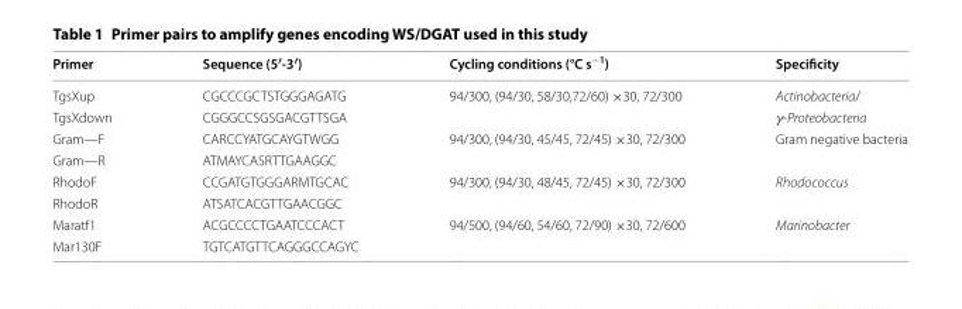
<table><thead><tr><td>Primer</td><td>Sequence (5′-3′)</td><td>Cycling conditions (°C s<sup>−1</sup>)</td><td>Specificity</td></tr></thead><tbody><tr><td>TgsXup</td><td>CGCCCGCTSTGGGAGATG</td><td rowspan="2">94/300, (94/30, 58/30,72/60) ×30, 72/300</td><td>Actinobacteria/</td></tr><tr><td>TgsXdown</td><td>CGGGCCSGSGACGTTSGA</td><td>γ-Proteobacteria</td></tr><tr><td>Gram—F</td><td>CARCCYATGCAYGTWGG</td><td rowspan="2">94/300, (94/30, 45/45, 72/45) ×30, 72/300</td><td rowspan="2">Gram negative bacteria</td></tr><tr><td>Gram—R</td><td>ATMAYCASRTTGAAGGC</td></tr><tr><td>RhodoF</td><td>CCGATGTGGGARMTGCAC</td><td rowspan="2">94/300, (94/30, 48/45, 72/45) ×30, 72/300</td><td rowspan="2">Rhodococcus</td></tr><tr><td>RhodoR</td><td>ATSATCACGTTGAACGGC</td></tr><tr><td>Maratf1</td><td>ACGCCCCTGAATCCCACT</td><td rowspan="2">94/500, (94/60, 54/60, 72/90) ×30, 72/600</td><td rowspan="2">Marinobacter</td></tr><tr><td>Mar130F</td><td>TGTCATGTTCAGGGCCAGYC</td></tr></tbody></table>